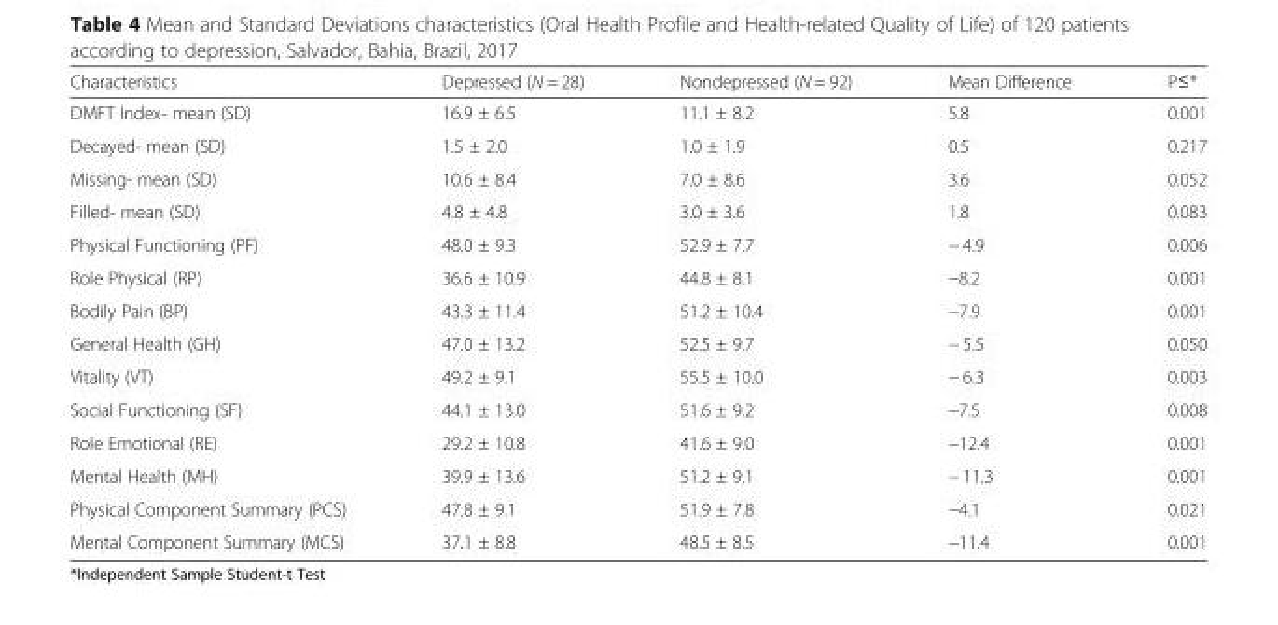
<table><thead><tr><td>Characteristics</td><td>Depressed (N = 28)</td><td>Nondepressed (N = 92)</td><td>Mean Difference</td><td>P≤*</td></tr></thead><tbody><tr><td>DMFT Index- mean (SD)</td><td>16.9 ± 6.5</td><td>11.1 ± 8.2</td><td>5.8</td><td>0.001</td></tr><tr><td>Decayed- mean (SD)</td><td>1.5 ± 2.0</td><td>1.0 ± 1.9</td><td>0.5</td><td>0.217</td></tr><tr><td>Missing- mean (SD)</td><td>10.6 ± 8.4</td><td>7.0 ± 8.6</td><td>3.6</td><td>0.052</td></tr><tr><td>Filled- mean (SD)</td><td>4.8 ± 4.8</td><td>3.0 ± 3.6</td><td>1.8</td><td>0.083</td></tr><tr><td>Physical Functioning (PF)</td><td>48.0 ± 9.3</td><td>52.9 ± 7.7</td><td>− 4.9</td><td>0.006</td></tr><tr><td>Role Physical (RP)</td><td>36.6 ± 10.9</td><td>44.8 ± 8.1</td><td>−8.2</td><td>0.001</td></tr><tr><td>Bodily Pain (BP)</td><td>43.3 ± 11.4</td><td>51.2 ± 10.4</td><td>−7.9</td><td>0.001</td></tr><tr><td>General Health (GH)</td><td>47.0 ± 13.2</td><td>52.5 ± 9.7</td><td>− 5.5</td><td>0.050</td></tr><tr><td>Vitality (VT)</td><td>49.2 ± 9.1</td><td>55.5 ± 10.0</td><td>− 6.3</td><td>0.003</td></tr><tr><td>Social Functioning (SF)</td><td>44.1 ± 13.0</td><td>51.6 ± 9.2</td><td>−7.5</td><td>0.008</td></tr><tr><td>Role Emotional (RE)</td><td>29.2 ± 10.8</td><td>41.6 ± 9.0</td><td>−12.4</td><td>0.001</td></tr><tr><td>Mental Health (MH)</td><td>39.9 ± 13.6</td><td>51.2 ± 9.1</td><td>− 11.3</td><td>0.001</td></tr><tr><td>Physical Component Summary (PCS)</td><td>47.8 ± 9.1</td><td>51.9 ± 7.8</td><td>−4.1</td><td>0.021</td></tr><tr><td>Mental Component Summary (MCS)</td><td>37.1 ± 8.8</td><td>48.5 ± 8.5</td><td>−11.4</td><td>0.001</td></tr></tbody></table>